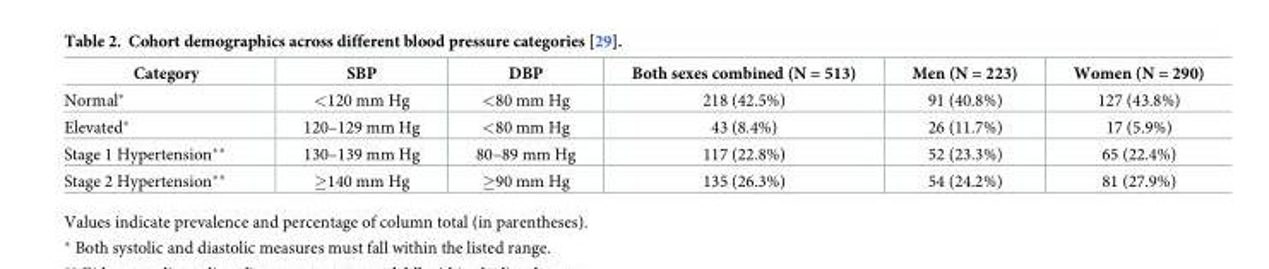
<table><thead><tr><td>Category</td><td>SBP</td><td>DBP</td><td>Both sexes combined (N = 513)</td><td>Men (N = 223)</td><td>Women (N = 290)</td></tr></thead><tbody><tr><td>Normal*</td><td>&lt;120 mm Hg</td><td>&lt;80 mm Hg</td><td>218 (42.5%)</td><td>91 (40.8%)</td><td>127 (43.8%)</td></tr><tr><td>Elevated*</td><td>120–129 mm Hg</td><td>&lt;80 mm Hg</td><td>43 (8.4%)</td><td>26 (11.7%)</td><td>17 (5.9%)</td></tr><tr><td>Stage 1 Hypertension**</td><td>130–139 mm Hg</td><td>80–89 mm Hg</td><td>117 (22.8%)</td><td>52 (23.3%)</td><td>65 (22.4%)</td></tr><tr><td>Stage 2 Hypertension**</td><td>≥140 mm Hg</td><td>≥90 mm Hg</td><td>135 (26.3%)</td><td>54 (24.2%)</td><td>81 (27.9%)</td></tr></tbody></table>